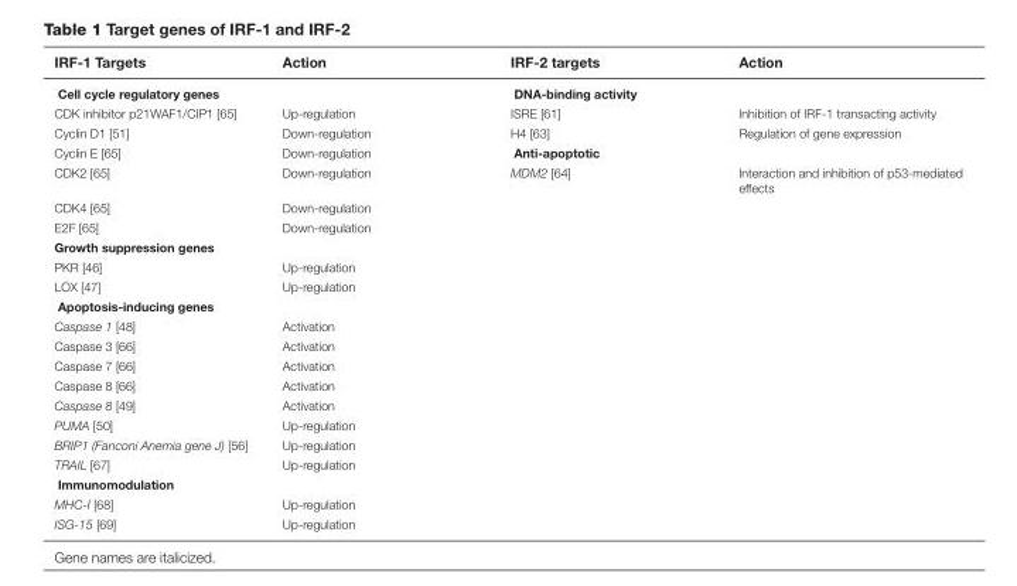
<table><thead><tr><td>IRF-1 Targets</td><td>Action</td><td>IRF-2 targets</td><td>Action</td></tr></thead><tbody><tr><td colspan="2">Cell cycle regulatory genes</td><td colspan="2">DNA-binding activity</td></tr><tr><td>CDK inhibitor p21WAF1/CIP1 [65]</td><td>Up-regulation</td><td>ISRE [61]</td><td>Inhibition of IRF-1 transacting activity</td></tr><tr><td>Cyclin D1 [51]</td><td>Down-regulation</td><td>H4 [63]</td><td>Regulation of gene expression</td></tr><tr><td>Cyclin E [65]</td><td>Down-regulation</td><td colspan="2">Anti-apoptotic</td></tr><tr><td>CDK2 [65]</td><td>Down-regulation</td><td>MDM2 [64]</td><td>Interaction and inhibition of p53-mediated effects</td></tr><tr><td>CDK4 [65]</td><td>Down-regulation</td><td></td><td></td></tr><tr><td>E2F [65]</td><td>Down-regulation</td><td></td><td></td></tr><tr><td colspan="4">Growth suppression genes</td></tr><tr><td>PKR [46]</td><td>Up-regulation</td><td></td><td></td></tr><tr><td>LOX [47]</td><td>Up-regulation</td><td></td><td></td></tr><tr><td colspan="4">Apoptosis-inducing genes</td></tr><tr><td>Caspase 1 [48]</td><td>Activation</td><td></td><td></td></tr><tr><td>Caspase 3 [66]</td><td>Activation</td><td></td><td></td></tr><tr><td>Caspase 7 [66]</td><td>Activation</td><td></td><td></td></tr><tr><td>Caspase 8 [66]</td><td>Activation</td><td></td><td></td></tr><tr><td>Caspase 8 [49]</td><td>Activation</td><td></td><td></td></tr><tr><td>PUMA [50]</td><td>Up-regulation</td><td></td><td></td></tr><tr><td>BRIP1 (Fanconi Anemia gene J) [56]</td><td>Up-regulation</td><td></td><td></td></tr><tr><td>TRAIL [67]</td><td>Up-regulation</td><td></td><td></td></tr><tr><td colspan="4">Immunomodulation</td></tr><tr><td>MHC-I [68]</td><td>Up-regulation</td><td></td><td></td></tr><tr><td>ISG-15 [69]</td><td>Up-regulation</td><td></td><td></td></tr></tbody></table>